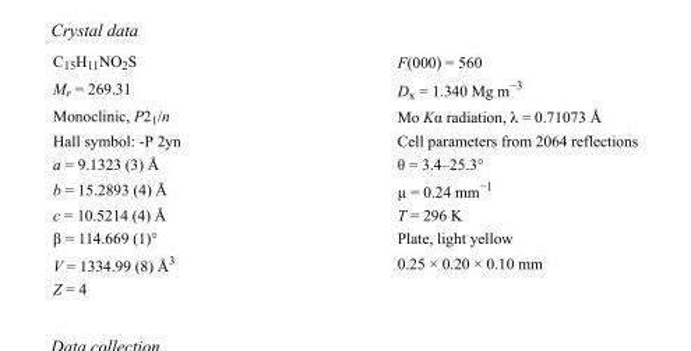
<table><tbody><tr><td>C<sub>15</sub>H<sub>11</sub>NO<sub>2</sub>S</td><td>F(000) = 560</td></tr><tr><td>M<sub>r</sub> = 269.31</td><td>D<sub>x</sub> = 1.340 Mg m<sup>−3</sup></td></tr><tr><td>Monoclinic, P2<sub>1</sub>/n</td><td>Mo Kα radiation, λ = 0.71073 Å</td></tr><tr><td>Hall symbol: -P 2yn</td><td>Cell parameters from 2064 reflections</td></tr><tr><td>a = 9.1323 (3) Å</td><td>θ = 3.4–25.3°</td></tr><tr><td>b = 15.2893 (4) Å</td><td>µ = 0.24 mm<sup>−1</sup></td></tr><tr><td>c = 10.5214 (4) Å</td><td>T = 296 K</td></tr><tr><td>β = 114.669 (1)°</td><td>Plate, light yellow</td></tr><tr><td>V = 1334.99 (8) Å<sup>3</sup></td><td>0.25 × 0.20 × 0.10 mm</td></tr><tr><td>Z = 4</td><td></td></tr></tbody></table>